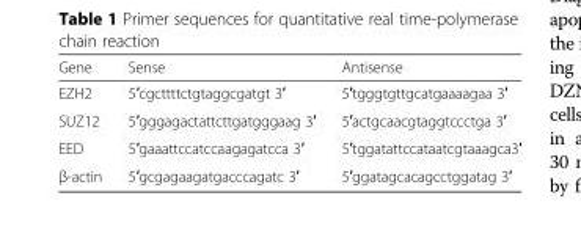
<table><thead><tr><td>Gene</td><td>Sense</td><td>Antisense</td></tr></thead><tbody><tr><td>EZH2</td><td>5′cgcttttctgtaggcgatgt 3′</td><td>5′tgggtgttgcatgaaaagaa 3′</td></tr><tr><td>SUZ12</td><td>5′gggagactattcttgatgggaag 3′</td><td>5′actgcaacgtaggtccctga 3′</td></tr><tr><td>EED</td><td>5′gaaattccatccaagagatcca 3′</td><td>5′tggatattccataatcgtaaagca3′</td></tr><tr><td>β-actin</td><td>5′gcgagaagatgacccagatc 3′</td><td>5′ggatagcacagcctggatag 3′</td></tr></tbody></table>